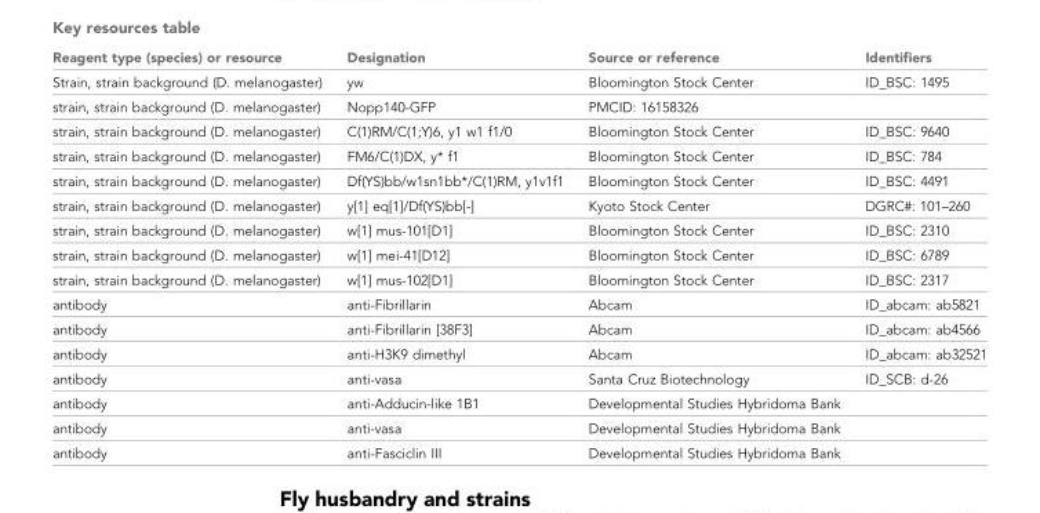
<table><thead><tr><td>Reagent type (species) or resource</td><td>Designation</td><td>Source or reference</td><td>Identifiers</td></tr></thead><tbody><tr><td>Strain, strain background (D. melanogaster)</td><td>yw</td><td>Bloomington Stock Center</td><td>ID_BSC: 1495</td></tr><tr><td>strain, strain background (D. melanogaster)</td><td>Nopp140-GFP</td><td>PMCID: 16158326</td><td></td></tr><tr><td>strain, strain background (D. melanogaster)</td><td>C(1)RM/C(1;Y)6, y1 w1 f1/0</td><td>Bloomington Stock Center</td><td>ID_BSC: 9640</td></tr><tr><td>strain, strain background (D. melanogaster)</td><td>FM6/C(1)DX, y* f1</td><td>Bloomington Stock Center</td><td>ID_BSC: 784</td></tr><tr><td>strain, strain background (D. melanogaster)</td><td>Df(YS)bb/w1sn1bb*/C(1)RM, y1v1f1</td><td>Bloomington Stock Center</td><td>ID_BSC: 4491</td></tr><tr><td>strain, strain background (D. melanogaster)</td><td>y[1] eq[1]/Df(YS)bb[-]</td><td>Kyoto Stock Center</td><td>DGRC#: 101–260</td></tr><tr><td>strain, strain background (D. melanogaster)</td><td>w[1] mus-101[D1]</td><td>Bloomington Stock Center</td><td>ID_BSC: 2310</td></tr><tr><td>strain, strain background (D. melanogaster)</td><td>w[1] mei-41[D12]</td><td>Bloomington Stock Center</td><td>ID_BSC: 6789</td></tr><tr><td>strain, strain background (D. melanogaster)</td><td>w[1] mus-102[D1]</td><td>Bloomington Stock Center</td><td>ID_BSC: 2317</td></tr><tr><td>antibody</td><td>anti-Fibrillarin</td><td>Abcam</td><td>ID_abcam: ab5821</td></tr><tr><td>antibody</td><td>anti-Fibrillarin [38F3]</td><td>Abcam</td><td>ID_abcam: ab4566</td></tr><tr><td>antibody</td><td>anti-H3K9 dimethyl</td><td>Abcam</td><td>ID_abcam: ab32521</td></tr><tr><td>antibody</td><td>anti-vasa</td><td>Santa Cruz Biotechnology</td><td>ID_SCB: d-26</td></tr><tr><td>antibody</td><td>anti-Adducin-like 1B1</td><td>Developmental Studies Hybridoma Bank</td><td></td></tr><tr><td>antibody</td><td>anti-vasa</td><td>Developmental Studies Hybridoma Bank</td><td></td></tr><tr><td>antibody</td><td>anti-Fasciclin III</td><td>Developmental Studies Hybridoma Bank</td><td></td></tr></tbody></table>